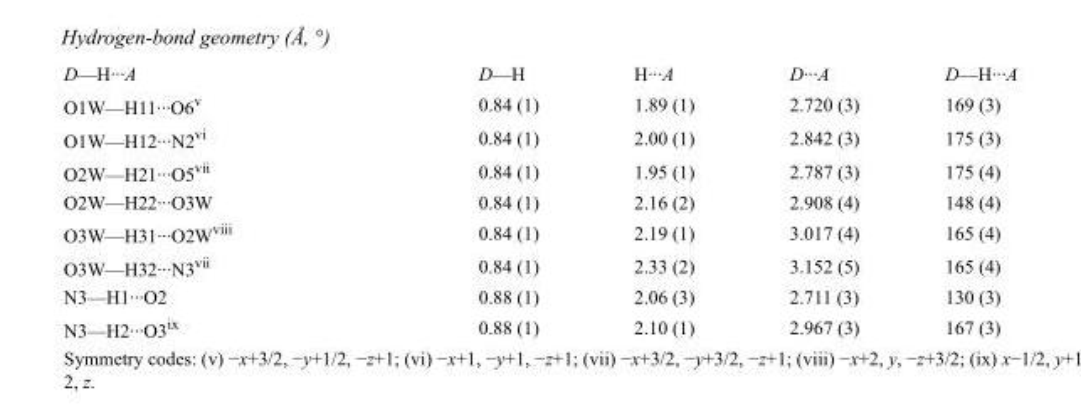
<table><tbody><tr><td>D—H···A</td><td>D—H</td><td>H···A</td><td>D···A</td><td>D—H···A</td></tr><tr><td>O1W—H11···O6<sup>v</sup></td><td>0.84 (1)</td><td>1.89 (1)</td><td>2.720 (3)</td><td>169 (3)</td></tr><tr><td>O1W—H12···N2<sup>vi</sup></td><td>0.84 (1)</td><td>2.00 (1)</td><td>2.842 (3)</td><td>175 (3)</td></tr><tr><td>O2W—H21···O5<sup>vii</sup></td><td>0.84 (1)</td><td>1.95 (1)</td><td>2.787 (3)</td><td>175 (4)</td></tr><tr><td>O2W—H22···O3W</td><td>0.84 (1)</td><td>2.16 (2)</td><td>2.908 (4)</td><td>148 (4)</td></tr><tr><td>O3W—H31···O2W<sup>viii</sup></td><td>0.84 (1)</td><td>2.19 (1)</td><td>3.017 (4)</td><td>165 (4)</td></tr><tr><td>O3W—H32···N3<sup>vii</sup></td><td>0.84 (1)</td><td>2.33 (2)</td><td>3.152 (5)</td><td>165 (4)</td></tr><tr><td>N3—H1···O2</td><td>0.88 (1)</td><td>2.06 (3)</td><td>2.711 (3)</td><td>130 (3)</td></tr><tr><td>N3—H2···O3<sup>ix</sup></td><td>0.88 (1)</td><td>2.10 (1)</td><td>2.967 (3)</td><td>167 (3)</td></tr></tbody></table>